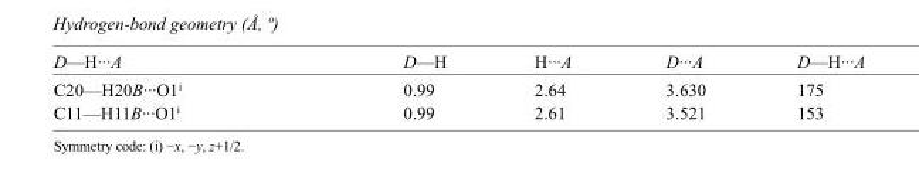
<table><tbody><tr><td>D—H···A</td><td>D—H</td><td>H···A</td><td>D···A</td><td>D—H···A</td></tr><tr><td>C20—H20B···O1<sup>i</sup></td><td>0.99</td><td>2.64</td><td>3.630</td><td>175</td></tr><tr><td>C11—H11B···O1<sup>i</sup></td><td>0.99</td><td>2.61</td><td>3.521</td><td>153</td></tr></tbody></table>